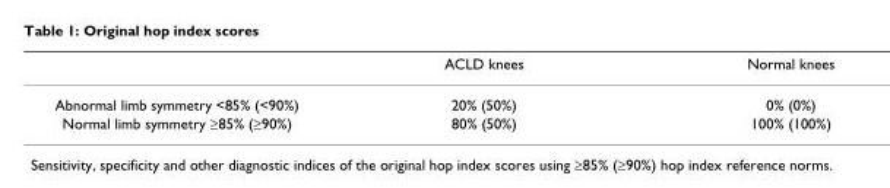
<table><thead><tr><td></td><td>ACLD knees</td><td>Normal knees</td></tr></thead><tbody><tr><td>Abnormal limb symmetry &lt;85% (&lt;90%)</td><td>20% (50%)</td><td>0% (0%)</td></tr><tr><td>Normal limb symmetry ≥85% (≥90%)</td><td>80% (50%)</td><td>100% (100%)</td></tr></tbody></table>